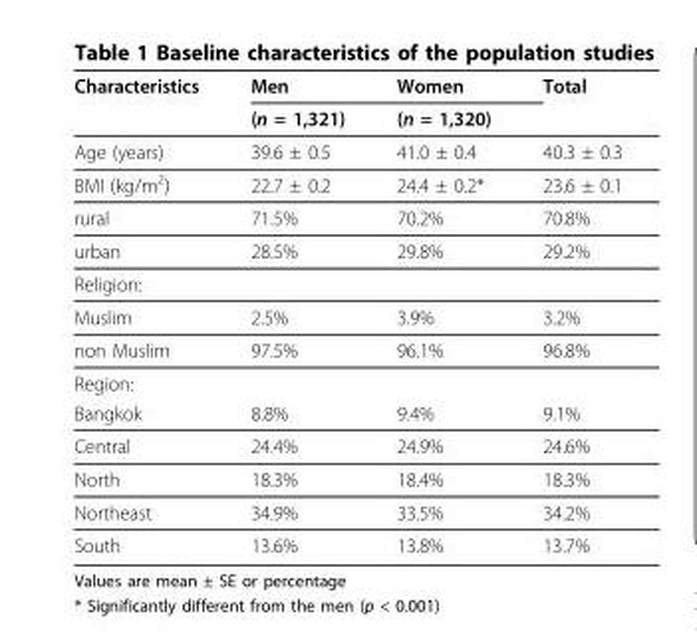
<table><thead><tr><td rowspan="2">Characteristics</td><td rowspan="2">Men (n = 1,321)</td><td rowspan="2">Women (n = 1,320)</td><td rowspan="2">Total</td></tr><tr></tr></thead><tbody><tr><td>Age (years)</td><td>39.6 ± 0.5</td><td>41.0 ± 0.4</td><td>40.3 ± 0.3</td></tr><tr><td>BMI (kg/m<sup>2</sup>)</td><td>22.7 ± 0.2</td><td>24.4 ± 0.2*</td><td>23.6 ± 0.1</td></tr><tr><td>rural</td><td>71.5%</td><td>70.2%</td><td>70.8%</td></tr><tr><td>urban</td><td>28.5%</td><td>29.8%</td><td>29.2%</td></tr><tr><td colspan="4">Religion:</td></tr><tr><td>Muslim</td><td>2.5%</td><td>3.9%</td><td>3.2%</td></tr><tr><td>non Muslim</td><td>97.5%</td><td>96.1%</td><td>96.8%</td></tr><tr><td colspan="4">Region:</td></tr><tr><td>Bangkok</td><td>8.8%</td><td>9.4%</td><td>9.1%</td></tr><tr><td>Central</td><td>24.4%</td><td>24.9%</td><td>24.6%</td></tr><tr><td>North</td><td>18.3%</td><td>18.4%</td><td>18.3%</td></tr><tr><td>Northeast</td><td>34.9%</td><td>33.5%</td><td>34.2%</td></tr><tr><td>South</td><td>13.6%</td><td>13.8%</td><td>13.7%</td></tr></tbody></table>